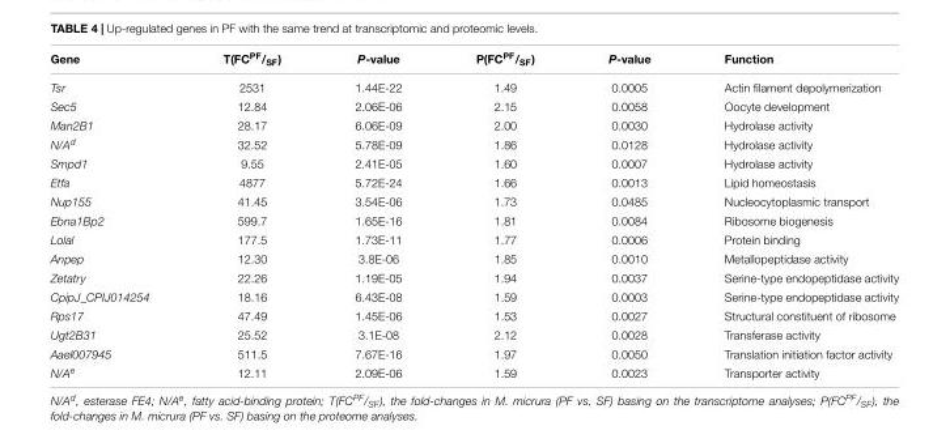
<table><thead><tr><td>Gene</td><td>T(FC<sup>PF</sup>/<sub>SF</sub>)</td><td>P-value</td><td>P(FC<sup>PF</sup>/<sub>SF</sub>)</td><td>P-value</td><td>Function</td></tr></thead><tbody><tr><td>Tsr</td><td>2531</td><td>1.44E-22</td><td>1.49</td><td>0.0005</td><td>Actin filament depolymerization</td></tr><tr><td>Sec5</td><td>12.84</td><td>2.06E-06</td><td>2.15</td><td>0.0058</td><td>Oocyte development</td></tr><tr><td>Man2B1</td><td>28.17</td><td>6.06E-09</td><td>2.00</td><td>0.0030</td><td>Hydrolase activity</td></tr><tr><td>N/A<sup>d</sup></td><td>32.52</td><td>5.78E-09</td><td>1.86</td><td>0.0128</td><td>Hydrolase activity</td></tr><tr><td>Smpd1</td><td>9.55</td><td>2.41E-05</td><td>1.60</td><td>0.0007</td><td>Hydrolase activity</td></tr><tr><td>Etfa</td><td>4877</td><td>5.72E-24</td><td>1.66</td><td>0.0013</td><td>Lipid homeostasis</td></tr><tr><td>Nup155</td><td>41.45</td><td>3.54E-06</td><td>1.73</td><td>0.0485</td><td>Nucleocytoplasmic transport</td></tr><tr><td>Ebna1Bp2</td><td>599.7</td><td>1.65E-16</td><td>1.81</td><td>0.0084</td><td>Ribosome biogenesis</td></tr><tr><td>Lolal</td><td>177.5</td><td>1.73E-11</td><td>1.77</td><td>0.0006</td><td>Protein binding</td></tr><tr><td>Anpep</td><td>12.30</td><td>3.8E-06</td><td>1.85</td><td>0.0010</td><td>Metallopeptidase activity</td></tr><tr><td>Zetatry</td><td>22.26</td><td>1.19E-05</td><td>1.94</td><td>0.0037</td><td>Serine-type endopeptidase activity</td></tr><tr><td>CpipJ_CPIJ014254</td><td>18.16</td><td>6.43E-08</td><td>1.59</td><td>0.0003</td><td>Serine-type endopeptidase activity</td></tr><tr><td>Rps17</td><td>47.49</td><td>1.45E-06</td><td>1.53</td><td>0.0027</td><td>Structural constituent of ribosome</td></tr><tr><td>Ugt2B31</td><td>25.52</td><td>3.1E-08</td><td>2.12</td><td>0.0028</td><td>Transferase activity</td></tr><tr><td>Aael007945</td><td>511.5</td><td>7.67E-16</td><td>1.97</td><td>0.0050</td><td>Translation initiation factor activity</td></tr><tr><td>N/A<sup>e</sup></td><td>12.11</td><td>2.09E-06</td><td>1.59</td><td>0.0023</td><td>Transporter activity</td></tr></tbody></table>